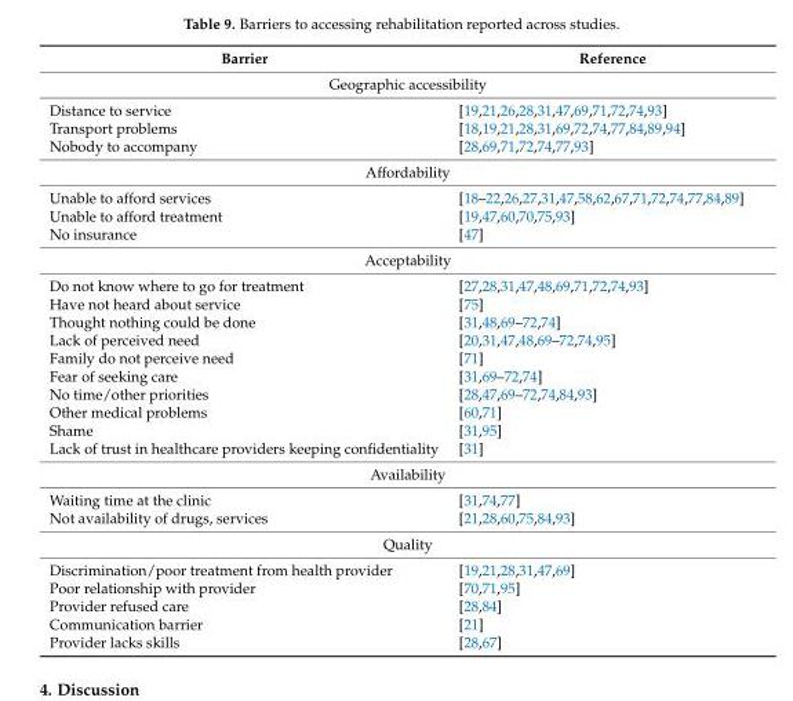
<table><thead><tr><td>Barrier</td><td>Reference</td></tr></thead><tbody><tr><td colspan="2">Geographic accessibility</td></tr><tr><td>Distance to service</td><td>[19,21,26,28,31,47,69,71,72,74,93]</td></tr><tr><td>Transport problems</td><td>[18,19,21,28,31,69,72,74,77,84,89,94]</td></tr><tr><td>Nobody to accompany</td><td>[28,69,71,72,74,77,93]</td></tr><tr><td colspan="2">Affordability</td></tr><tr><td>Unable to afford services</td><td>[18–22,26,27,31,47,58,62,67,71,72,74,77,84,89]</td></tr><tr><td>Unable to afford treatment</td><td>[19,47,60,70,75,93]</td></tr><tr><td>No insurance</td><td>[47]</td></tr><tr><td colspan="2">Acceptability</td></tr><tr><td>Do not know where to go for treatment</td><td>[27,28,31,47,48,69,71,72,74,93]</td></tr><tr><td>Have not heard about service</td><td>[75]</td></tr><tr><td>Thought nothing could be done</td><td>[31,48,69–72,74]</td></tr><tr><td>Lack of perceived need</td><td>[20,31,47,48,69–72,74,95]</td></tr><tr><td>Family do not perceive need</td><td>[71]</td></tr><tr><td>Fear of seeking care</td><td>[31,69–72,74]</td></tr><tr><td>No time/other priorities</td><td>[28,47,69–72,74,84,93]</td></tr><tr><td>Other medical problems</td><td>[60,71]</td></tr><tr><td>Shame</td><td>[31,95]</td></tr><tr><td>Lack of trust in healthcare providers keeping confidentiality</td><td>[31]</td></tr><tr><td colspan="2">Availability</td></tr><tr><td>Waiting time at the clinic</td><td>[31,74,77]</td></tr><tr><td>Not availability of drugs, services</td><td>[21,28,60,75,84,93]</td></tr><tr><td colspan="2">Quality</td></tr><tr><td>Discrimination/poor treatment from health provider</td><td>[19,21,28,31,47,69]</td></tr><tr><td>Poor relationship with provider</td><td>[70,71,95]</td></tr><tr><td>Provider refused care</td><td>[28,84]</td></tr><tr><td>Communication barrier</td><td>[21]</td></tr><tr><td>Provider lacks skills</td><td>[28,67]</td></tr></tbody></table>